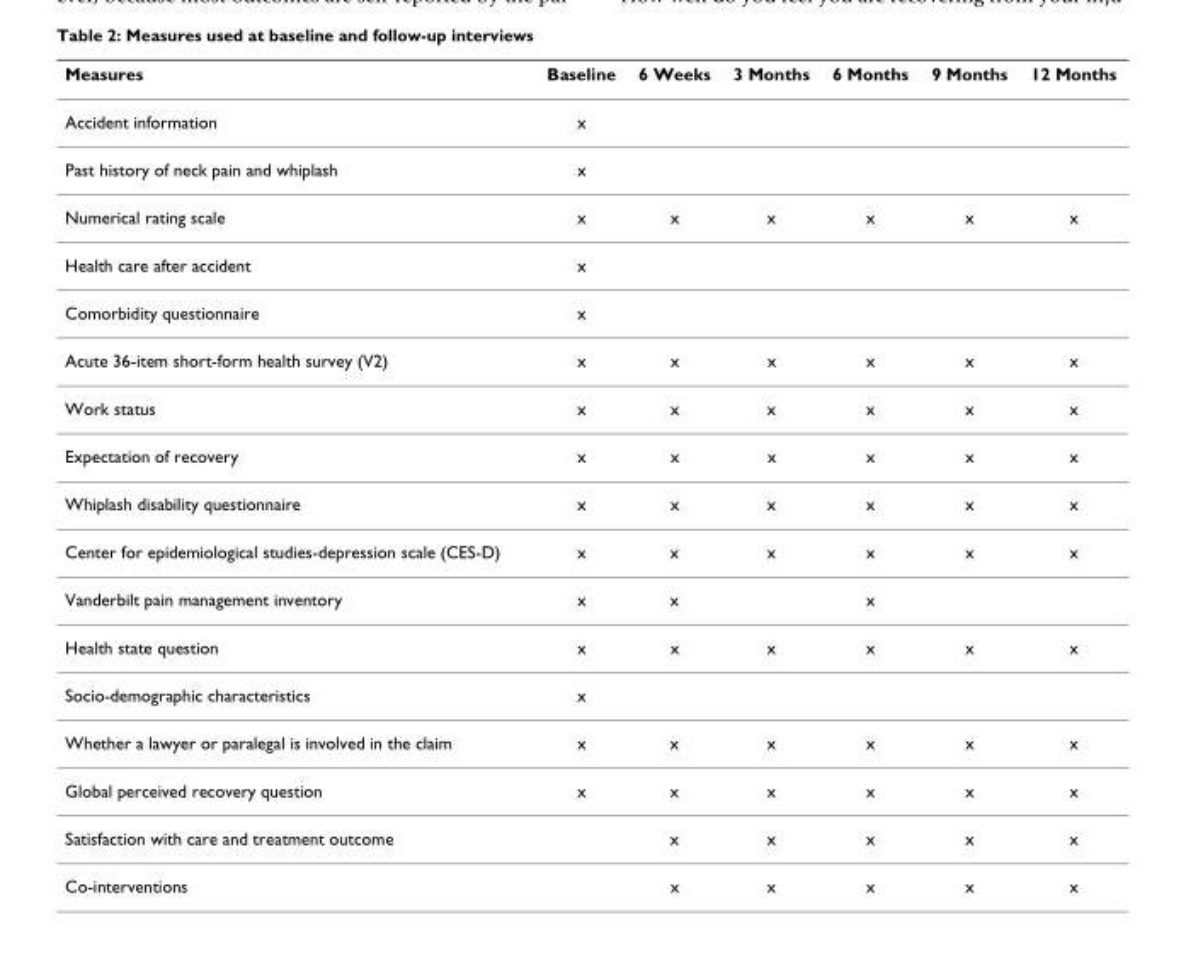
<table><thead><tr><td>Measures</td><td>Baseline</td><td>6 Weeks</td><td>3 Months</td><td>6 Months</td><td>9 Months</td><td>12 Months</td></tr></thead><tbody><tr><td>Accident information</td><td>x</td><td></td><td></td><td></td><td></td><td></td></tr><tr><td>Past history of neck pain and whiplash</td><td>x</td><td></td><td></td><td></td><td></td><td></td></tr><tr><td>Numerical rating scale</td><td>x</td><td>x</td><td>x</td><td>x</td><td>x</td><td>x</td></tr><tr><td>Health care after accident</td><td>x</td><td></td><td></td><td></td><td></td><td></td></tr><tr><td>Comorbidity questionnaire</td><td>x</td><td></td><td></td><td></td><td></td><td></td></tr><tr><td>Acute 36-item short-form health survey (V2)</td><td>x</td><td>x</td><td>x</td><td>x</td><td>x</td><td>x</td></tr><tr><td>Work status</td><td>x</td><td>x</td><td>x</td><td>x</td><td>x</td><td>x</td></tr><tr><td>Expectation of recovery</td><td>x</td><td>x</td><td>x</td><td>x</td><td>x</td><td>x</td></tr><tr><td>Whiplash disability questionnaire</td><td>x</td><td>x</td><td>x</td><td>x</td><td>x</td><td>x</td></tr><tr><td>Center for epidemiological studies-depression scale (CES-D)</td><td>x</td><td>x</td><td>x</td><td>x</td><td>x</td><td>x</td></tr><tr><td>Vanderbilt pain management inventory</td><td>x</td><td>x</td><td></td><td>x</td><td></td><td></td></tr><tr><td>Health state question</td><td>x</td><td>x</td><td>x</td><td>x</td><td>x</td><td>x</td></tr><tr><td>Socio-demographic characteristics</td><td>x</td><td></td><td></td><td></td><td></td><td></td></tr><tr><td>Whether a lawyer or paralegal is involved in the claim</td><td>x</td><td>x</td><td>x</td><td>x</td><td>x</td><td>x</td></tr><tr><td>Global perceived recovery question</td><td>x</td><td>x</td><td>x</td><td>x</td><td>x</td><td>x</td></tr><tr><td>Satisfaction with care and treatment outcome</td><td></td><td>x</td><td>x</td><td>x</td><td>x</td><td>x</td></tr><tr><td>Co-interventions</td><td></td><td>x</td><td>x</td><td>x</td><td>x</td><td>x</td></tr></tbody></table>